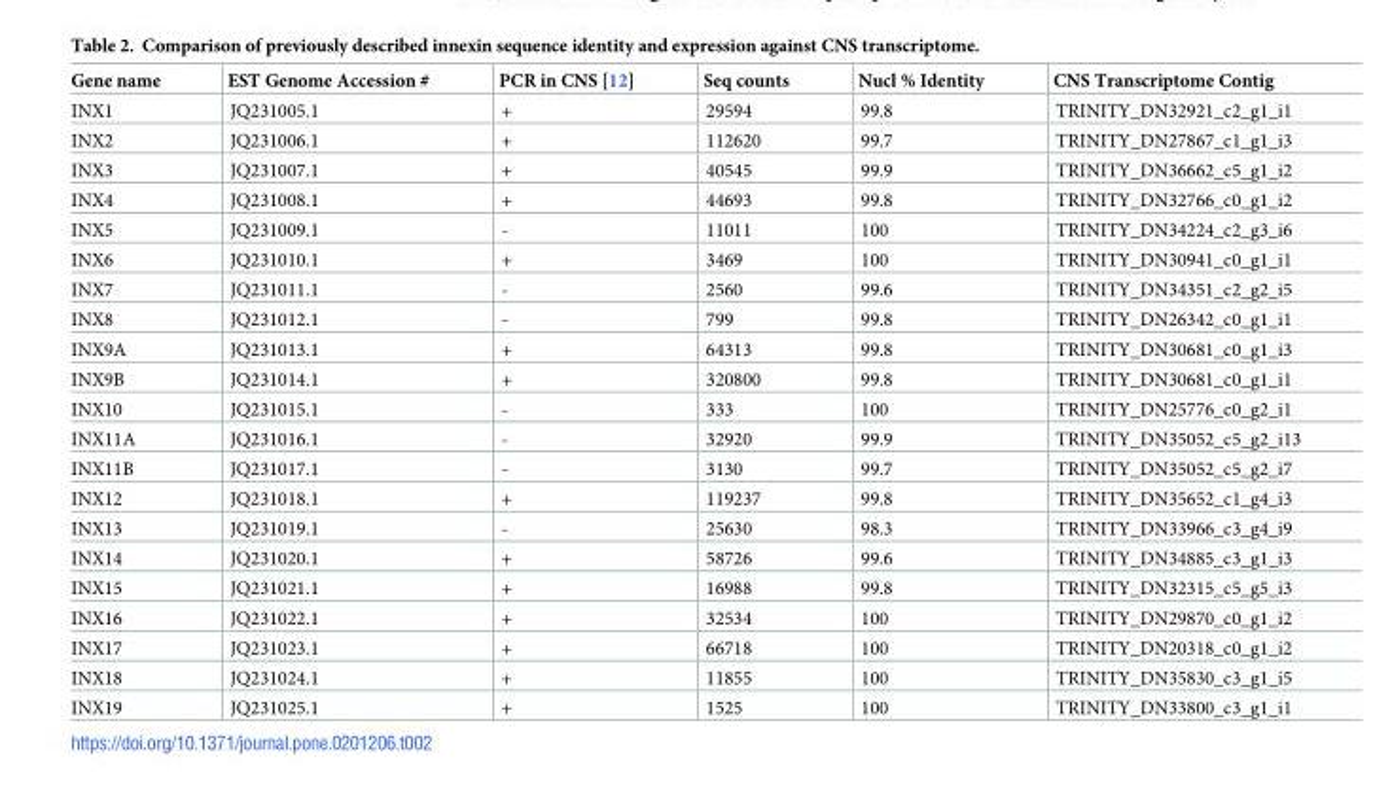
<table><thead><tr><td>Gene name</td><td>EST Genome Accession #</td><td>PCR in CNS [12]</td><td>Seq counts</td><td>Nucl % Identity</td><td>CNS Transcriptome Contig</td></tr></thead><tbody><tr><td>INX1</td><td>JQ231005.1</td><td>+</td><td>29594</td><td>99.8</td><td>TRINITY_DN32921_c2_g1_i1</td></tr><tr><td>INX2</td><td>JQ231006.1</td><td>+</td><td>112620</td><td>99.7</td><td>TRINITY_DN27867_c1_g1_i3</td></tr><tr><td>INX3</td><td>JQ231007.1</td><td>+</td><td>40545</td><td>99.9</td><td>TRINITY_DN36662_c5_g1_i2</td></tr><tr><td>INX4</td><td>JQ231008.1</td><td>+</td><td>44693</td><td>99.8</td><td>TRINITY_DN32766_c0_g1_i2</td></tr><tr><td>INX5</td><td>JQ231009.1</td><td>-</td><td>11011</td><td>100</td><td>TRINITY_DN34224_c2_g3_i6</td></tr><tr><td>INX6</td><td>JQ231010.1</td><td>+</td><td>3469</td><td>100</td><td>TRINITY_DN30941_c0_g1_i1</td></tr><tr><td>INX7</td><td>JQ231011.1</td><td>-</td><td>2560</td><td>99.6</td><td>TRINITY_DN34351_c2_g2_i5</td></tr><tr><td>INX8</td><td>JQ231012.1</td><td>-</td><td>799</td><td>99.8</td><td>TRINITY_DN26342_c0_g1_i1</td></tr><tr><td>INX9A</td><td>JQ231013.1</td><td>+</td><td>64313</td><td>99.8</td><td>TRINITY_DN30681_c0_g1_i3</td></tr><tr><td>INX9B</td><td>JQ231014.1</td><td>+</td><td>320800</td><td>99.8</td><td>TRINITY_DN30681_c0_g1_i1</td></tr><tr><td>INX10</td><td>JQ231015.1</td><td>-</td><td>333</td><td>100</td><td>TRINITY_DN25776_c0_g2_i1</td></tr><tr><td>INX11A</td><td>JQ231016.1</td><td>-</td><td>32920</td><td>99.9</td><td>TRINITY_DN35052_c5_g2_i13</td></tr><tr><td>INX11B</td><td>JQ231017.1</td><td>-</td><td>3130</td><td>99.7</td><td>TRINITY_DN35052_c5_g2_i7</td></tr><tr><td>INX12</td><td>JQ231018.1</td><td>+</td><td>119237</td><td>99.8</td><td>TRINITY_DN35652_c1_g4_i3</td></tr><tr><td>INX13</td><td>JQ231019.1</td><td>-</td><td>25630</td><td>98.3</td><td>TRINITY_DN33966_c3_g4_i9</td></tr><tr><td>INX14</td><td>JQ231020.1</td><td>+</td><td>58726</td><td>99.6</td><td>TRINITY_DN34885_c3_g1_i3</td></tr><tr><td>INX15</td><td>JQ231021.1</td><td>+</td><td>16988</td><td>99.8</td><td>TRINITY_DN32315_c5_g5_i3</td></tr><tr><td>INX16</td><td>JQ231022.1</td><td>+</td><td>32534</td><td>100</td><td>TRINITY_DN29870_c0_g1_i2</td></tr><tr><td>INX17</td><td>JQ231023.1</td><td>+</td><td>66718</td><td>100</td><td>TRINITY_DN20318_c0_g1_i2</td></tr><tr><td>INX18</td><td>JQ231024.1</td><td>+</td><td>11855</td><td>100</td><td>TRINITY_DN35830_c3_g1_i5</td></tr><tr><td>INX19</td><td>JQ231025.1</td><td>+</td><td>1525</td><td>100</td><td>TRINITY_DN33800_c3_g1_i1</td></tr></tbody></table>